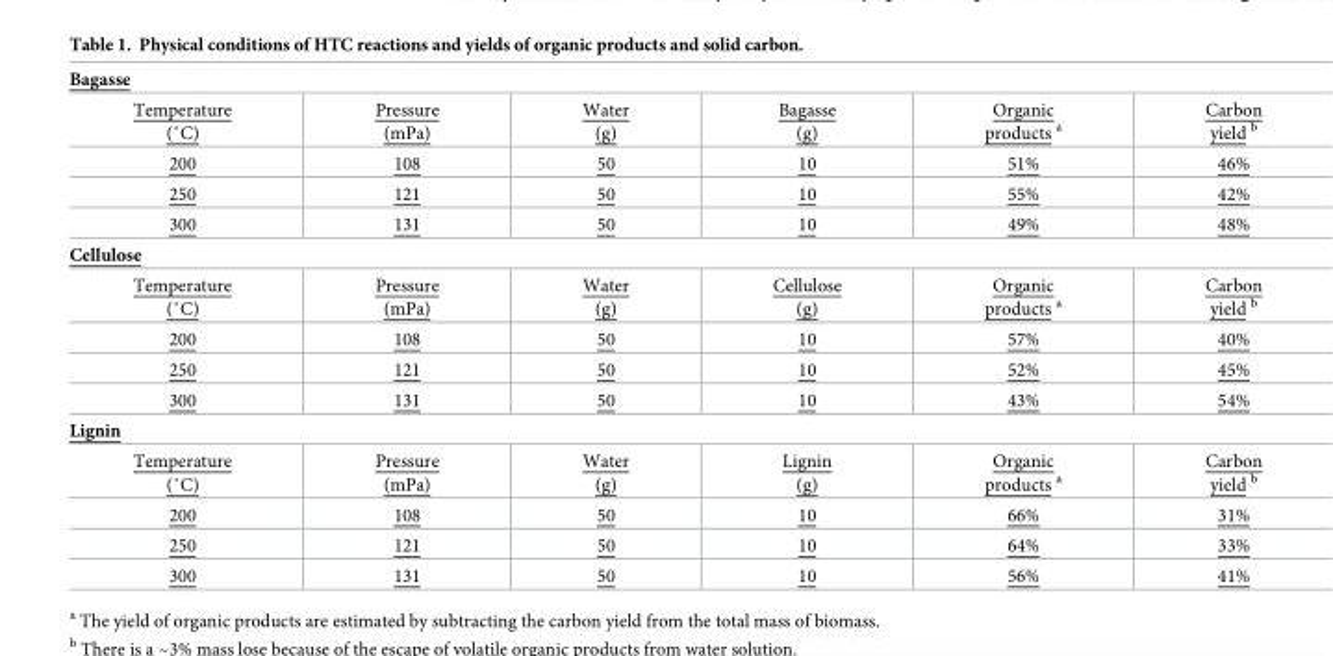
<table><tbody><tr><td colspan="6">Bagasse</td></tr><tr><td>Temperature (˚C)</td><td>Pressure (mPa)</td><td>Water (g)</td><td>Bagasse (g)</td><td>Organic products <sup>a</sup></td><td>Carbon yield <sup>b</sup></td></tr><tr><td>200</td><td>108</td><td>50</td><td>10</td><td>51%</td><td>46%</td></tr><tr><td>250</td><td>121</td><td>50</td><td>10</td><td>55%</td><td>42%</td></tr><tr><td>300</td><td>131</td><td>50</td><td>10</td><td>49%</td><td>48%</td></tr><tr><td colspan="6">Cellulose</td></tr><tr><td>Temperature (˚C)</td><td>Pressure (mPa)</td><td>Water (g)</td><td>Cellulose (g)</td><td>Organic products <sup>a</sup></td><td>Carbon yield <sup>b</sup></td></tr><tr><td>200</td><td>108</td><td>50</td><td>10</td><td>57%</td><td>40%</td></tr><tr><td>250</td><td>121</td><td>50</td><td>10</td><td>52%</td><td>45%</td></tr><tr><td>300</td><td>131</td><td>50</td><td>10</td><td>43%</td><td>54%</td></tr><tr><td colspan="6">Lignin</td></tr><tr><td>Temperature (˚C)</td><td>Pressure (mPa)</td><td>Water (g)</td><td>Lignin (g)</td><td>Organic products <sup>a</sup></td><td>Carbon yield <sup>b</sup></td></tr><tr><td>200</td><td>108</td><td>50</td><td>10</td><td>66%</td><td>31%</td></tr><tr><td>250</td><td>121</td><td>50</td><td>10</td><td>64%</td><td>33%</td></tr><tr><td>300</td><td>131</td><td>50</td><td>10</td><td>56%</td><td>41%</td></tr></tbody></table>